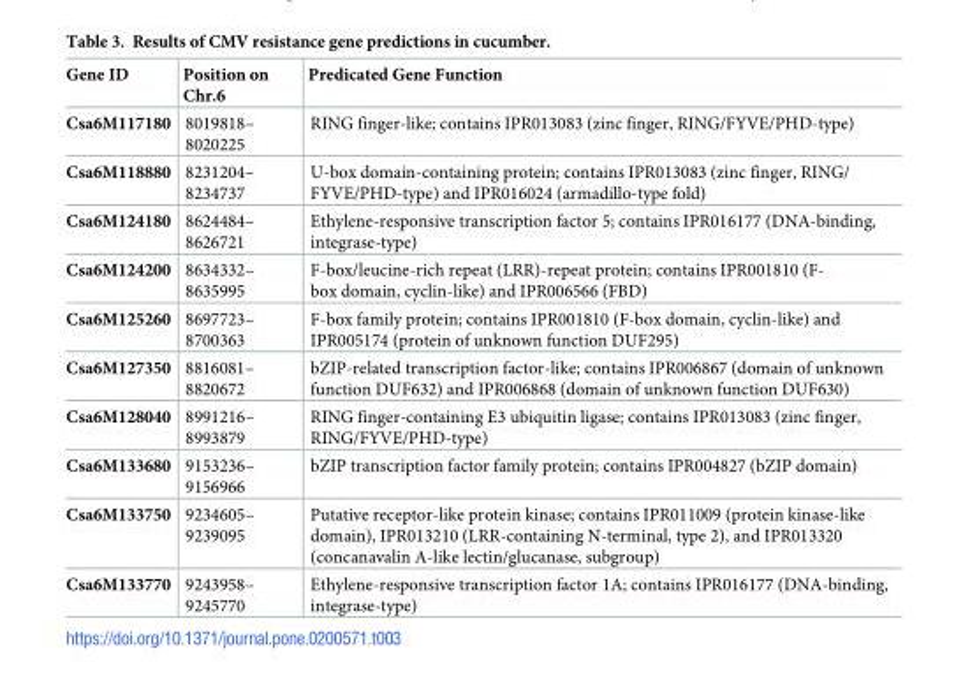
<table><thead><tr><td>Gene ID</td><td>Position on Chr.6</td><td>Predicated Gene Function</td></tr></thead><tbody><tr><td>Csa6M117180</td><td>8019818– 8020225</td><td>RING finger-like; contains IPR013083 (zinc finger, RING/FYVE/PHD-type)</td></tr><tr><td>Csa6M118880</td><td>8231204– 8234737</td><td>U-box domain-containing protein; contains IPR013083 (zinc finger, RING/ FYVE/PHD-type) and IPR016024 (armadillo-type fold)</td></tr><tr><td>Csa6M124180</td><td>8624484– 8626721</td><td>Ethylene-responsive transcription factor 5; contains IPR016177 (DNA-binding, integrase-type)</td></tr><tr><td>Csa6M124200</td><td>8634332– 8635995</td><td>F-box/leucine-rich repeat (LRR)-repeat protein; contains IPR001810 (F- box domain, cyclin-like) and IPR006566 (FBD)</td></tr><tr><td>Csa6M125260</td><td>8697723– 8700363</td><td>F-box family protein; contains IPR001810 (F-box domain, cyclin-like) and IPR005174 (protein of unknown function DUF295)</td></tr><tr><td>Csa6M127350</td><td>8816081– 8820672</td><td>bZIP-related transcription factor-like; contains IPR006867 (domain of unknown function DUF632) and IPR006868 (domain of unknown function DUF630)</td></tr><tr><td>Csa6M128040</td><td>8991216– 8993879</td><td>RING finger-containing E3 ubiquitin ligase; contains IPR013083 (zinc finger, RING/FYVE/PHD-type)</td></tr><tr><td>Csa6M133680</td><td>9153236– 9156966</td><td>bZIP transcription factor family protein; contains IPR004827 (bZIP domain)</td></tr><tr><td>Csa6M133750</td><td>9234605– 9239095</td><td>Putative receptor-like protein kinase; contains IPR011009 (protein kinase-like domain), IPR013210 (LRR-containing N-terminal, type 2), and IPR013320 (concanavalin A-like lectin/glucanase, subgroup)</td></tr><tr><td>Csa6M133770</td><td>9243958– 9245770</td><td>Ethylene-responsive transcription factor 1A; contains IPR016177 (DNA-binding, integrase-type)</td></tr></tbody></table>